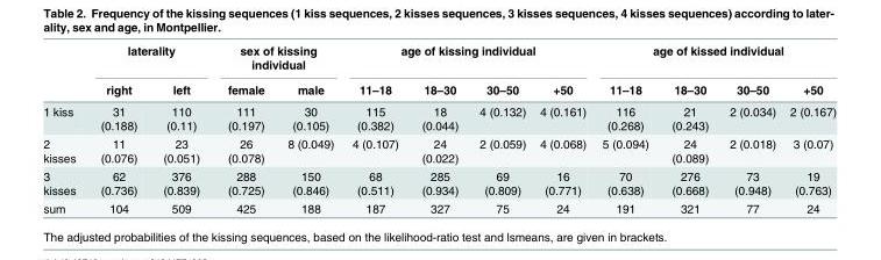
<table><thead><tr><td rowspan="2"></td><td colspan="2">laterality</td><td colspan="2">sex of kissing individual</td><td colspan="4">age of kissing individual</td><td colspan="4">age of kissed individual</td></tr><tr><td>right</td><td>left</td><td>female</td><td>male</td><td>11–18</td><td>18–30</td><td>30–50</td><td>+50</td><td>11–18</td><td>18–30</td><td>30–50</td><td>+50</td></tr></thead><tbody><tr><td>1 kiss</td><td>31 (0.188)</td><td>110 (0.11)</td><td>111 (0.197)</td><td>30 (0.105)</td><td>115 (0.382)</td><td>18 (0.044)</td><td>4 (0.132)</td><td>4 (0.161)</td><td>116 (0.268)</td><td>21 (0.243)</td><td>2 (0.034)</td><td>2 (0.167)</td></tr><tr><td>2 kisses</td><td>11 (0.076)</td><td>23 (0.051)</td><td>26 (0.078)</td><td>8 (0.049)</td><td>4 (0.107)</td><td>24 (0.022)</td><td>2 (0.059)</td><td>4 (0.068)</td><td>5 (0.094)</td><td>24 (0.089)</td><td>2 (0.018)</td><td>3 (0.07)</td></tr><tr><td>3 kisses</td><td>62 (0.736)</td><td>376 (0.839)</td><td>288 (0.725)</td><td>150 (0.846)</td><td>68 (0.511)</td><td>285 (0.934)</td><td>69 (0.809)</td><td>16 (0.771)</td><td>70 (0.638)</td><td>276 (0.668)</td><td>73 (0.948)</td><td>19 (0.763)</td></tr><tr><td>sum</td><td>104</td><td>509</td><td>425</td><td>188</td><td>187</td><td>327</td><td>75</td><td>24</td><td>191</td><td>321</td><td>77</td><td>24</td></tr></tbody></table>